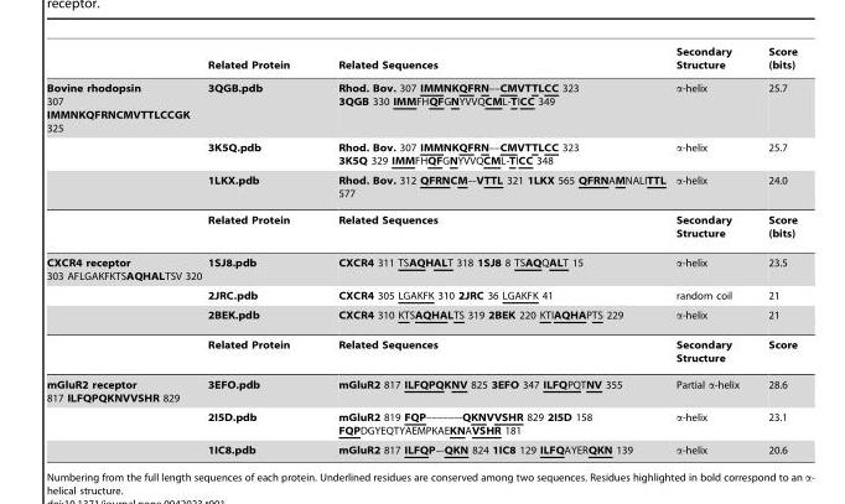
<table><thead><tr><td></td><td>Related Protein</td><td>Related Sequences</td><td>Secondary Structure</td><td>Score (bits)</td></tr></thead><tbody><tr><td rowspan="4">Bovine rhodopsin 307 IMMNKQFRNCMVTTLCCGK 325</td><td>3QGB.pdb</td><td>Rhod. Bov. 307 IMMNKQFRN––CMVTTLCC 323 3QGB 330 IMMFHQFGNYVVQCML-TICC 349</td><td>α-helix</td><td>25.7</td></tr><tr><td>3K5Q.pdb</td><td>Rhod. Bov. 307 IMMNKQFRN––CMVTTLCC 323 3K5Q 329 IMMFHQFGNYVVQCML-TICC 348</td><td>α-helix</td><td>25.7</td></tr><tr><td>1LKX.pdb</td><td>Rhod. Bov. 312 QFRNCM–-VTTL 321 1LKX 565 QFRNAMNALITTL 577</td><td>α-helix</td><td>24.0</td></tr><tr><td>Related Protein</td><td>Related Sequences</td><td>Secondary Structure</td><td>Score (bits)</td></tr><tr><td rowspan="4">CXCR4 receptor 303 AFLGAKFKTSAQHALTSV 320</td><td>1SJ8.pdb</td><td>CXCR4 311 TSAQHALT 318 1SJ8 8 TSAQQALT 15</td><td>α-helix</td><td>23.5</td></tr><tr><td>2JRC.pdb</td><td>CXCR4 305 LGAKFK 310 2JRC 36 LGAKFK 41</td><td>random coil</td><td>21</td></tr><tr><td>2BEK.pdb</td><td>CXCR4 310 KTSAQHALTS 319 2BEK 220 KTIAQHAPTS 229</td><td>α-helix</td><td>21</td></tr><tr><td>Related Protein</td><td>Related Sequences</td><td>Secondary Structure</td><td>Score</td></tr><tr><td rowspan="3">mGluR2 receptor 817 ILFQPQKNVVSHR 829</td><td>3EFO.pdb</td><td>mGluR2 817 ILFQPQKNV 825 3EFO 347 ILFQPQTNV 355</td><td>Partial α-helix</td><td>28.6</td></tr><tr><td>2I5D.pdb</td><td>mGluR2 819 FQP––––––-QKNVVSHR 829 2I5D 158 FQPDGYEQTYAEMPKAEKNAVSHR 181</td><td>α-helix</td><td>23.1</td></tr><tr><td>1IC8.pdb</td><td>mGluR2 817 ILFQP–-QKN 824 1IC8 129 ILFQAYERQKN 139</td><td>α-helix</td><td>20.6</td></tr></tbody></table>